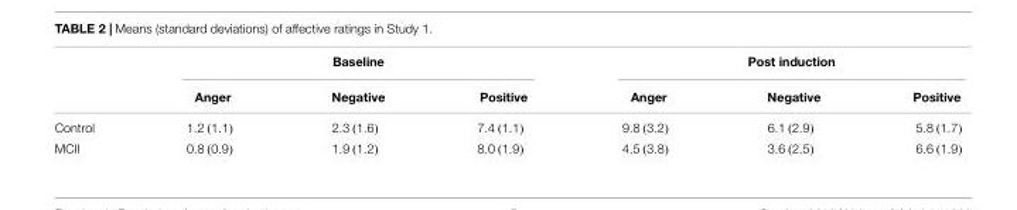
<table><thead><tr><td rowspan="2"></td><td colspan="3">Baseline</td><td colspan="3">Post induction</td></tr><tr><td>Anger</td><td>Negative</td><td>Positive</td><td>Anger</td><td>Negative</td><td>Positive</td></tr></thead><tbody><tr><td>Control</td><td>1.2 (1.1)</td><td>2.3 (1.6)</td><td>7.4 (1.1)</td><td>9.8 (3.2)</td><td>6.1 (2.9)</td><td>5.8 (1.7)</td></tr><tr><td>MCII</td><td>0.8 (0.9)</td><td>1.9 (1.2)</td><td>8.0 (1.9)</td><td>4.5 (3.8)</td><td>3.6 (2.5)</td><td>6.6 (1.9)</td></tr></tbody></table>